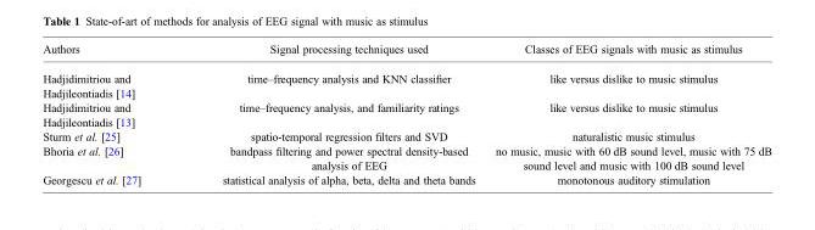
<table><thead><tr><td>Authors</td><td>Signal processing techniques used</td><td>Classes of EEG signals with music as stimulus</td></tr></thead><tbody><tr><td>Hadjidimitriou and Hadjileontiadis [14]</td><td>time–frequency analysis and KNN classifier</td><td>like versus dislike to music stimulus</td></tr><tr><td>Hadjidimitriou and Hadjileontiadis [13]</td><td>time–frequency analysis, and familiarity ratings</td><td>like versus dislike to music stimulus</td></tr><tr><td>Sturm et al. [25]</td><td>spatio-temporal regression filters and SVD</td><td>naturalistic music stimulus</td></tr><tr><td>Bhoria et al. [26]</td><td>bandpass filtering and power spectral density-based analysis of EEG</td><td>no music, music with 60 dB sound level, music with 75 dB sound level and music with 100 dB sound level</td></tr><tr><td>Georgescu et al. [27]</td><td>statistical analysis of alpha, beta, delta and theta bands</td><td>monotonous auditory stimulation</td></tr></tbody></table>